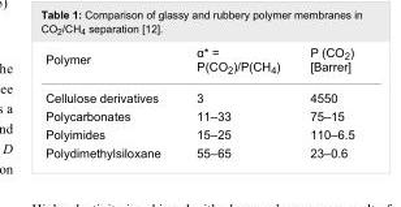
<table><tbody><tr><td>Polymer</td><td>α* = P(CO<sub>2</sub>)/P(CH<sub>4</sub>)</td><td>P (CO<sub>2</sub>) [Barrer]</td></tr><tr><td>Cellulose derivatives</td><td>3</td><td>4550</td></tr><tr><td>Polycarbonates</td><td>11–33</td><td>75–15</td></tr><tr><td>Polyimides</td><td>15–25</td><td>110–6.5</td></tr><tr><td>Polydimethylsiloxane</td><td>55–65</td><td>23–0.6</td></tr></tbody></table>